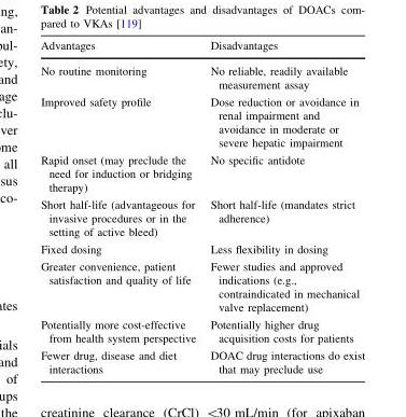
<table><thead><tr><td>Advantages</td><td>Disadvantages</td></tr></thead><tbody><tr><td>No routine monitoring</td><td>No reliable, readily available measurement assay</td></tr><tr><td>Improved safety profile</td><td>Dose reduction or avoidance in renal impairment and avoidance in moderate or severe hepatic impairment</td></tr><tr><td>Rapid onset (may preclude the need for induction or bridging therapy)</td><td>No specific antidote</td></tr><tr><td>Short half-life (advantageous for invasive procedures or in the setting of active bleed)</td><td>Short half-life (mandates strict adherence)</td></tr><tr><td>Fixed dosing</td><td>Less flexibility in dosing</td></tr><tr><td>Greater convenience, patient satisfaction and quality of life</td><td>Fewer studies and approved indications (e.g., contraindicated in mechanical valve replacement)</td></tr><tr><td>Potentially more cost-effective from health system perspective</td><td>Potentially higher drug acquisition costs for patients</td></tr><tr><td>Fewer drug, disease and diet interactions</td><td>DOAC drug interactions do exist that may preclude use</td></tr></tbody></table>